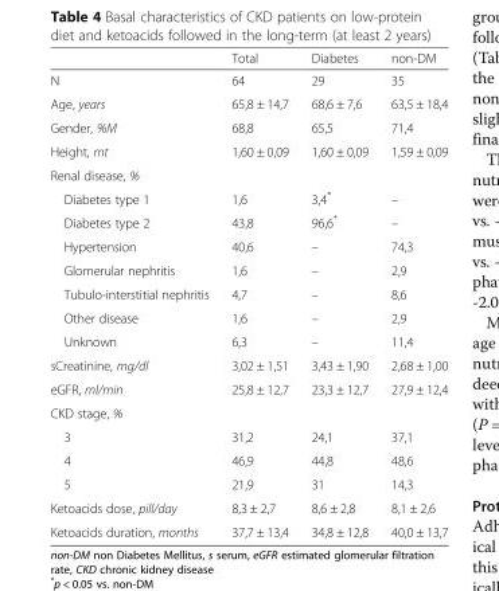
<table><thead><tr><td></td><td>Total</td><td>Diabetes</td><td>non-DM</td></tr></thead><tbody><tr><td>N</td><td>64</td><td>29</td><td>35</td></tr><tr><td>Age, years</td><td>65,8 ± 14,7</td><td>68,6 ± 7,6</td><td>63,5 ± 18,4</td></tr><tr><td>Gender, %M</td><td>68,8</td><td>65,5</td><td>71,4</td></tr><tr><td>Height, mt</td><td>1,60 ± 0,09</td><td>1,60 ± 0,09</td><td>1,59 ± 0,09</td></tr><tr><td colspan="4">Renal disease, %</td></tr><tr><td>Diabetes type 1</td><td>1,6</td><td>3,4*</td><td>–</td></tr><tr><td>Diabetes type 2</td><td>43,8</td><td>96,6*</td><td>–</td></tr><tr><td>Hypertension</td><td>40,6</td><td>–</td><td>74,3</td></tr><tr><td>Glomerular nephritis</td><td>1,6</td><td>–</td><td>2,9</td></tr><tr><td>Tubulo-interstitial nephritis</td><td>4,7</td><td>–</td><td>8,6</td></tr><tr><td>Other disease</td><td>1,6</td><td>–</td><td>2,9</td></tr><tr><td>Unknown</td><td>6,3</td><td>–</td><td>11,4</td></tr><tr><td>sCreatinine, mg/dl</td><td>3,02 ± 1,51</td><td>3,43 ± 1,90</td><td>2,68 ± 1,00</td></tr><tr><td>eGFR, ml/min</td><td>25,8 ± 12,7</td><td>23,3 ± 12,7</td><td>27,9 ± 12,4</td></tr><tr><td colspan="4">CKD stage, %</td></tr><tr><td>3</td><td>31,2</td><td>24,1</td><td>37,1</td></tr><tr><td>4</td><td>46,9</td><td>44,8</td><td>48,6</td></tr><tr><td>5</td><td>21,9</td><td>31</td><td>14,3</td></tr><tr><td>Ketoacids dose, pill/day</td><td>8,3 ± 2,7</td><td>8,6 ± 2,8</td><td>8,1 ± 2,6</td></tr><tr><td>Ketoacids duration, months</td><td>37,7 ± 13,4</td><td>34,8 ± 12,8</td><td>40,0 ± 13,7</td></tr></tbody></table>